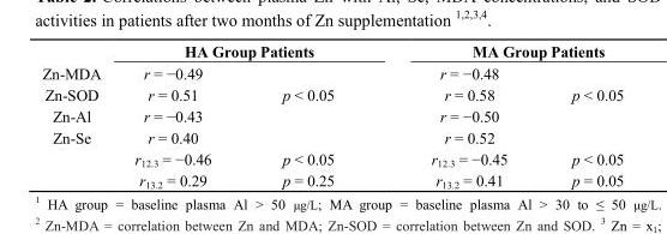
<table><thead><tr><td rowspan="2">Zn-MDA</td><td colspan="2">HA Group Patients</td><td colspan="2">MA Group Patients</td></tr><tr><td>r = −0.49</td><td></td><td>r = −0.48</td><td></td></tr></thead><tbody><tr><td>Zn-SOD</td><td>r = 0.51</td><td>p &lt; 0.05</td><td>r = 0.58</td><td>p &lt; 0.05</td></tr><tr><td>Zn-Al</td><td>r = −0.43</td><td></td><td>r = −0.50</td><td></td></tr><tr><td rowspan="3">Zn-Se</td><td>r = 0.40</td><td></td><td>r = 0.52</td><td></td></tr><tr><td>r<sub>12.3</sub> = −0.46</td><td>p &lt; 0.05</td><td>r<sub>12.3</sub> = −0.45</td><td>p &lt; 0.05</td></tr><tr><td>r<sub>13.2</sub> = 0.29</td><td>p = 0.25</td><td>r<sub>13.2</sub> = 0.41</td><td>p = 0.05</td></tr></tbody></table>